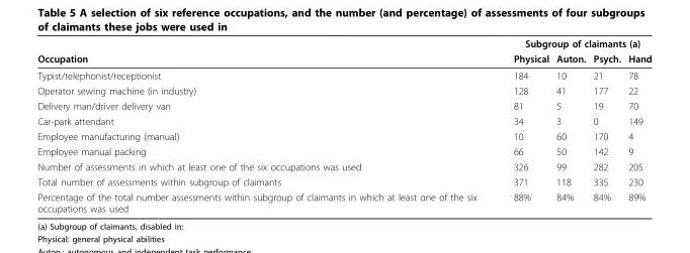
<table><thead><tr><td rowspan="2">Occupation</td><td colspan="4">Subgroup of claimants (a)</td></tr><tr><td>Physical</td><td>Auton.</td><td>Psych.</td><td>Hand</td></tr></thead><tbody><tr><td>Typist/telephonist/receptionist</td><td>184</td><td>10</td><td>21</td><td>78</td></tr><tr><td>Operator sewing machine (in industry)</td><td>128</td><td>41</td><td>177</td><td>22</td></tr><tr><td>Delivery man/driver delivery van</td><td>81</td><td>5</td><td>19</td><td>70</td></tr><tr><td>Car-park attendant</td><td>34</td><td>3</td><td>0</td><td>149</td></tr><tr><td>Employee manufacturing (manual)</td><td>10</td><td>60</td><td>170</td><td>4</td></tr><tr><td>Employee manual packing</td><td>66</td><td>50</td><td>142</td><td>9</td></tr><tr><td>Number of assessments in which at least one of the six occupations was used</td><td>326</td><td>99</td><td>282</td><td>205</td></tr><tr><td>Total number of assessments within subgroup of claimants</td><td>371</td><td>118</td><td>335</td><td>230</td></tr><tr><td>Percentage of the total number assessments within subgroup of claimants in which at least one of the six occupations was used</td><td>88%</td><td>84%</td><td>84%</td><td>89%</td></tr></tbody></table>